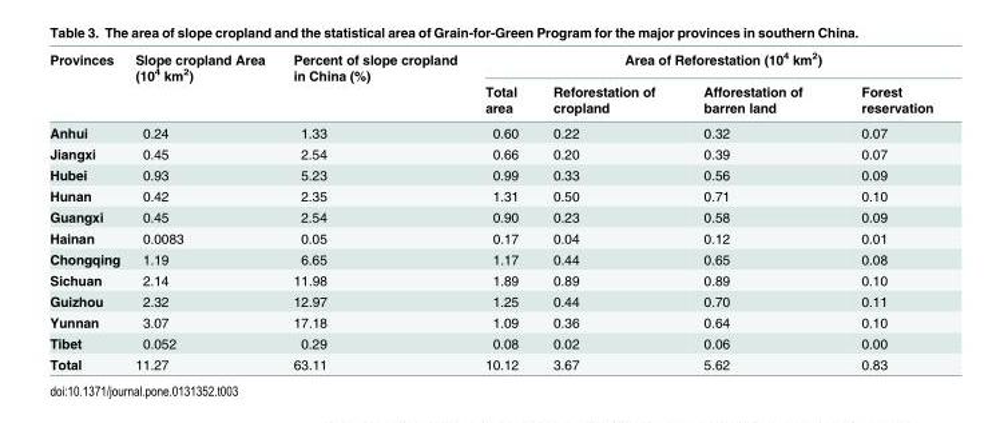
<table><thead><tr><td rowspan="2">Provinces</td><td rowspan="2">Slope cropland Area (10<sup>4</sup> km<sup>2</sup>)</td><td rowspan="2">Percent of slope cropland in China (%)</td><td colspan="4">Area of Reforestation (10<sup>4</sup> km<sup>2</sup>)</td></tr><tr><td>Total area</td><td>Reforestation of cropland</td><td>Afforestation of barren land</td><td>Forest reservation</td></tr></thead><tbody><tr><td>Anhui</td><td>0.24</td><td>1.33</td><td>0.60</td><td>0.22</td><td>0.32</td><td>0.07</td></tr><tr><td>Jiangxi</td><td>0.45</td><td>2.54</td><td>0.66</td><td>0.20</td><td>0.39</td><td>0.07</td></tr><tr><td>Hubei</td><td>0.93</td><td>5.23</td><td>0.99</td><td>0.33</td><td>0.56</td><td>0.09</td></tr><tr><td>Hunan</td><td>0.42</td><td>2.35</td><td>1.31</td><td>0.50</td><td>0.71</td><td>0.10</td></tr><tr><td>Guangxi</td><td>0.45</td><td>2.54</td><td>0.90</td><td>0.23</td><td>0.58</td><td>0.09</td></tr><tr><td>Hainan</td><td>0.0083</td><td>0.05</td><td>0.17</td><td>0.04</td><td>0.12</td><td>0.01</td></tr><tr><td>Chongqing</td><td>1.19</td><td>6.65</td><td>1.17</td><td>0.44</td><td>0.65</td><td>0.08</td></tr><tr><td>Sichuan</td><td>2.14</td><td>11.98</td><td>1.89</td><td>0.89</td><td>0.89</td><td>0.10</td></tr><tr><td>Guizhou</td><td>2.32</td><td>12.97</td><td>1.25</td><td>0.44</td><td>0.70</td><td>0.11</td></tr><tr><td>Yunnan</td><td>3.07</td><td>17.18</td><td>1.09</td><td>0.36</td><td>0.64</td><td>0.10</td></tr><tr><td>Tibet</td><td>0.052</td><td>0.29</td><td>0.08</td><td>0.02</td><td>0.06</td><td>0.00</td></tr><tr><td>Total</td><td>11.27</td><td>63.11</td><td>10.12</td><td>3.67</td><td>5.62</td><td>0.83</td></tr></tbody></table>